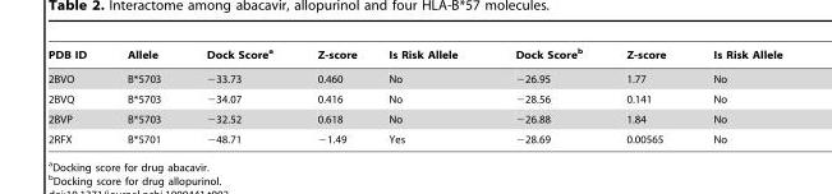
<table><thead><tr><td>PDB ID</td><td>Allele</td><td>Dock Score<sup>a</sup></td><td>Z-score</td><td>Is Risk Allele</td><td>Dock Score<sup>b</sup></td><td>Z-score</td><td>Is Risk Allele</td></tr></thead><tbody><tr><td>2BVO</td><td>B*5703</td><td>−33.73</td><td>0.460</td><td>No</td><td>−26.95</td><td>1.77</td><td>No</td></tr><tr><td>2BVQ</td><td>B*5703</td><td>−34.07</td><td>0.416</td><td>No</td><td>−28.56</td><td>0.141</td><td>No</td></tr><tr><td>2BVP</td><td>B*5703</td><td>−32.52</td><td>0.618</td><td>No</td><td>−26.88</td><td>1.84</td><td>No</td></tr><tr><td>2RFX</td><td>B*5701</td><td>−48.71</td><td>−1.49</td><td>Yes</td><td>−28.69</td><td>0.00565</td><td>No</td></tr></tbody></table>